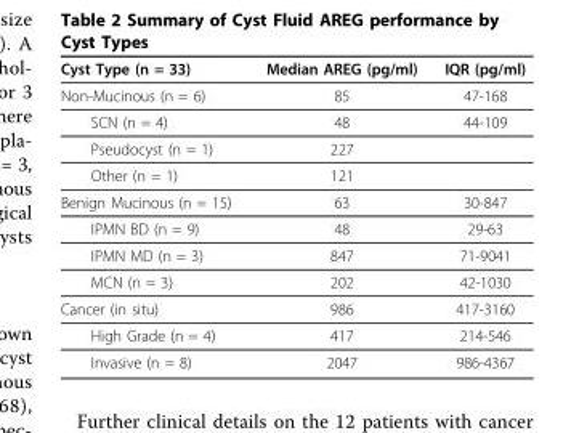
<table><thead><tr><td>Cyst Type (n = 33)</td><td>Median AREG (pg/ml)</td><td>IQR (pg/ml)</td></tr></thead><tbody><tr><td>Non-Mucinous (n = 6)</td><td>85</td><td>47-168</td></tr><tr><td>SCN (n = 4)</td><td>48</td><td>44-109</td></tr><tr><td>Pseudocyst (n = 1)</td><td>227</td><td></td></tr><tr><td>Other (n = 1)</td><td>121</td><td></td></tr><tr><td>Benign Mucinous (n = 15)</td><td>63</td><td>30-847</td></tr><tr><td>IPMN BD (n = 9)</td><td>48</td><td>29-63</td></tr><tr><td>IPMN MD (n = 3)</td><td>847</td><td>71-9041</td></tr><tr><td>MCN (n = 3)</td><td>202</td><td>42-1030</td></tr><tr><td>Cancer (in situ)</td><td>986</td><td>417-3160</td></tr><tr><td>High Grade (n = 4)</td><td>417</td><td>214-546</td></tr><tr><td>Invasive (n = 8)</td><td>2047</td><td>986-4367</td></tr></tbody></table>